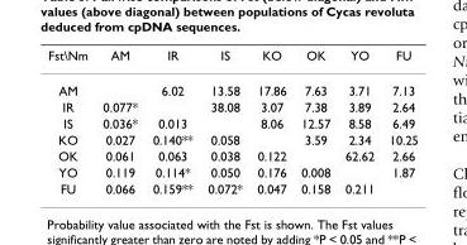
<table><thead><tr><td>Fst\Nm</td><td>AM</td><td>IR</td><td>IS</td><td>KO</td><td>OK</td><td>YO</td><td>FU</td></tr></thead><tbody><tr><td>AM</td><td></td><td>6.02</td><td>13.58</td><td>17.86</td><td>7.63</td><td>3.71</td><td>7.13</td></tr><tr><td>IR</td><td>0.077*</td><td></td><td>38.08</td><td>3.07</td><td>7.38</td><td>3.89</td><td>2.64</td></tr><tr><td>IS</td><td>0.036*</td><td>0.013</td><td></td><td>8.06</td><td>12.57</td><td>8.58</td><td>6.49</td></tr><tr><td>KO</td><td>0.027</td><td>0.140**</td><td>0.058</td><td></td><td>3.59</td><td>2.34</td><td>10.25</td></tr><tr><td>OK</td><td>0.061</td><td>0.063</td><td>0.038</td><td>0.122</td><td></td><td>62.62</td><td>2.66</td></tr><tr><td>YO</td><td>0.119</td><td>0.114*</td><td>0.050</td><td>0.176</td><td>0.008</td><td></td><td>1.87</td></tr><tr><td>FU</td><td>0.066</td><td>0.159**</td><td>0.072*</td><td>0.047</td><td>0.158</td><td>0.211</td><td></td></tr></tbody></table>